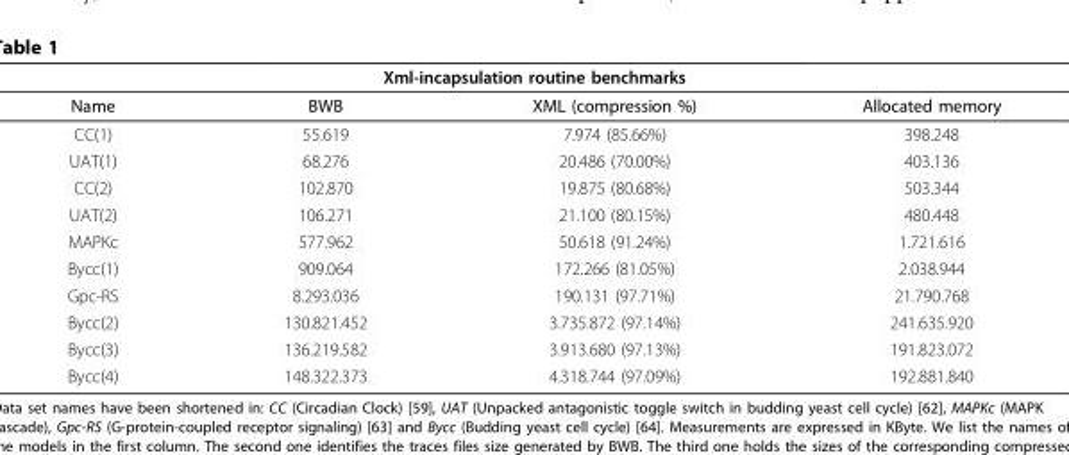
<table><thead><tr><td colspan="4">Xml-incapsulation routine benchmarks</td></tr><tr><td>Name</td><td>BWB</td><td>XML (compression %)</td><td>Allocated memory</td></tr></thead><tbody><tr><td>CC(1)</td><td>55.619</td><td>7.974 (85.66%)</td><td>398.248</td></tr><tr><td>UAT(1)</td><td>68.276</td><td>20.486 (70.00%)</td><td>403.136</td></tr><tr><td>CC(2)</td><td>102.870</td><td>19.875 (80.68%)</td><td>503.344</td></tr><tr><td>UAT(2)</td><td>106.271</td><td>21.100 (80.15%)</td><td>480.448</td></tr><tr><td>MAPKc</td><td>577.962</td><td>50.618 (91.24%)</td><td>1.721.616</td></tr><tr><td>Bycc(1)</td><td>909.064</td><td>172.266 (81.05%)</td><td>2.038.944</td></tr><tr><td>Gpc-RS</td><td>8.293.036</td><td>190.131 (97.71%)</td><td>21.790.768</td></tr><tr><td>Bycc(2)</td><td>130.821.452</td><td>3.735.872 (97.14%)</td><td>241.635.920</td></tr><tr><td>Bycc(3)</td><td>136.219.582</td><td>3.913.680 (97.13%)</td><td>191.823.072</td></tr><tr><td>Bycc(4)</td><td>148.322.373</td><td>4.318.744 (97.09%)</td><td>192.881.840</td></tr></tbody></table>